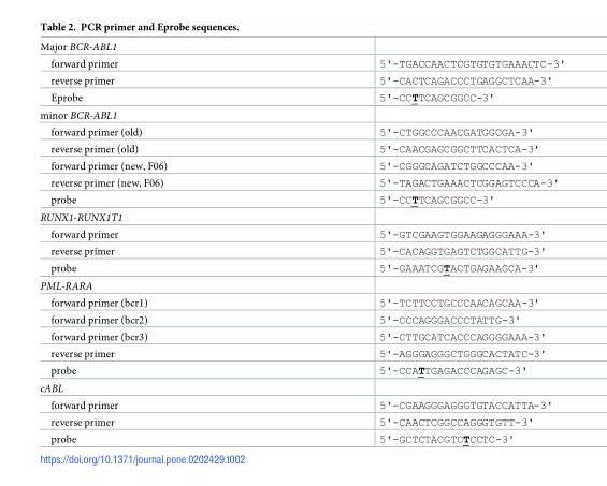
<table><tbody><tr><td colspan="2">Major BCR-ABL1</td></tr><tr><td>forward primer</td><td>5&#x27;-TGACCAACTCGTGTGTGAAACTC-3&#x27;</td></tr><tr><td>reverse primer</td><td>5&#x27;-CACTCAGACCCTGAGGCTCAA-3&#x27;</td></tr><tr><td>Eprobe</td><td>5&#x27;-CCTTCAGCGGCC-3&#x27;</td></tr><tr><td colspan="2">minor BCR-ABL1</td></tr><tr><td>forward primer (old)</td><td>5&#x27;-CTGGCCCAACGATGGCGA-3&#x27;</td></tr><tr><td>reverse primer (old)</td><td>5&#x27;-CAACGAGCGGCTTCACTCA-3&#x27;</td></tr><tr><td>forward primer (new, F06)</td><td>5&#x27;-CGGGCAGATCTGGCCCAA-3&#x27;</td></tr><tr><td>reverse primer (new, F06)</td><td>5&#x27;-TAGACTGAAACTCGGAGTCCCA-3&#x27;</td></tr><tr><td>probe</td><td>5&#x27;-CCTTCAGCGGCC-3&#x27;</td></tr><tr><td colspan="2">RUNX1-RUNX1T1</td></tr><tr><td>forward primer</td><td>5&#x27;-GTCGAAGTGGAAGAGGGAAA-3&#x27;</td></tr><tr><td>reverse primer</td><td>5&#x27;-CACAGGTGAGTCTGGCATTG-3&#x27;</td></tr><tr><td>probe</td><td>5&#x27;-GAAATCGTACTGAGAAGCA-3&#x27;</td></tr><tr><td colspan="2">PML-RARA</td></tr><tr><td>forward primer (bcr1)</td><td>5&#x27;-TCTTCCTGCCCAACAGCAA-3&#x27;</td></tr><tr><td>forward primer (bcr2)</td><td>5&#x27;-CCCAGGGACCCTATTG-3&#x27;</td></tr><tr><td>forward primer (bcr3)</td><td>5&#x27;-CTTGCATCACCCAGGGGAAA-3&#x27;</td></tr><tr><td>reverse primer</td><td>5&#x27;-AGGGAGGGCTGGGCACTATC-3&#x27;</td></tr><tr><td>probe</td><td>5&#x27;-CCATTGAGACCCAGAGC-3&#x27;</td></tr><tr><td colspan="2">cABL</td></tr><tr><td>forward primer</td><td>5&#x27;-CGAAGGGAGGGTGTACCATTA-3&#x27;</td></tr><tr><td>reverse primer</td><td>5&#x27;-CAACTCGGCCAGGGTGTT-3&#x27;</td></tr><tr><td>probe</td><td>5&#x27;-GCTCTACGTCTCCTC-3&#x27;</td></tr></tbody></table>